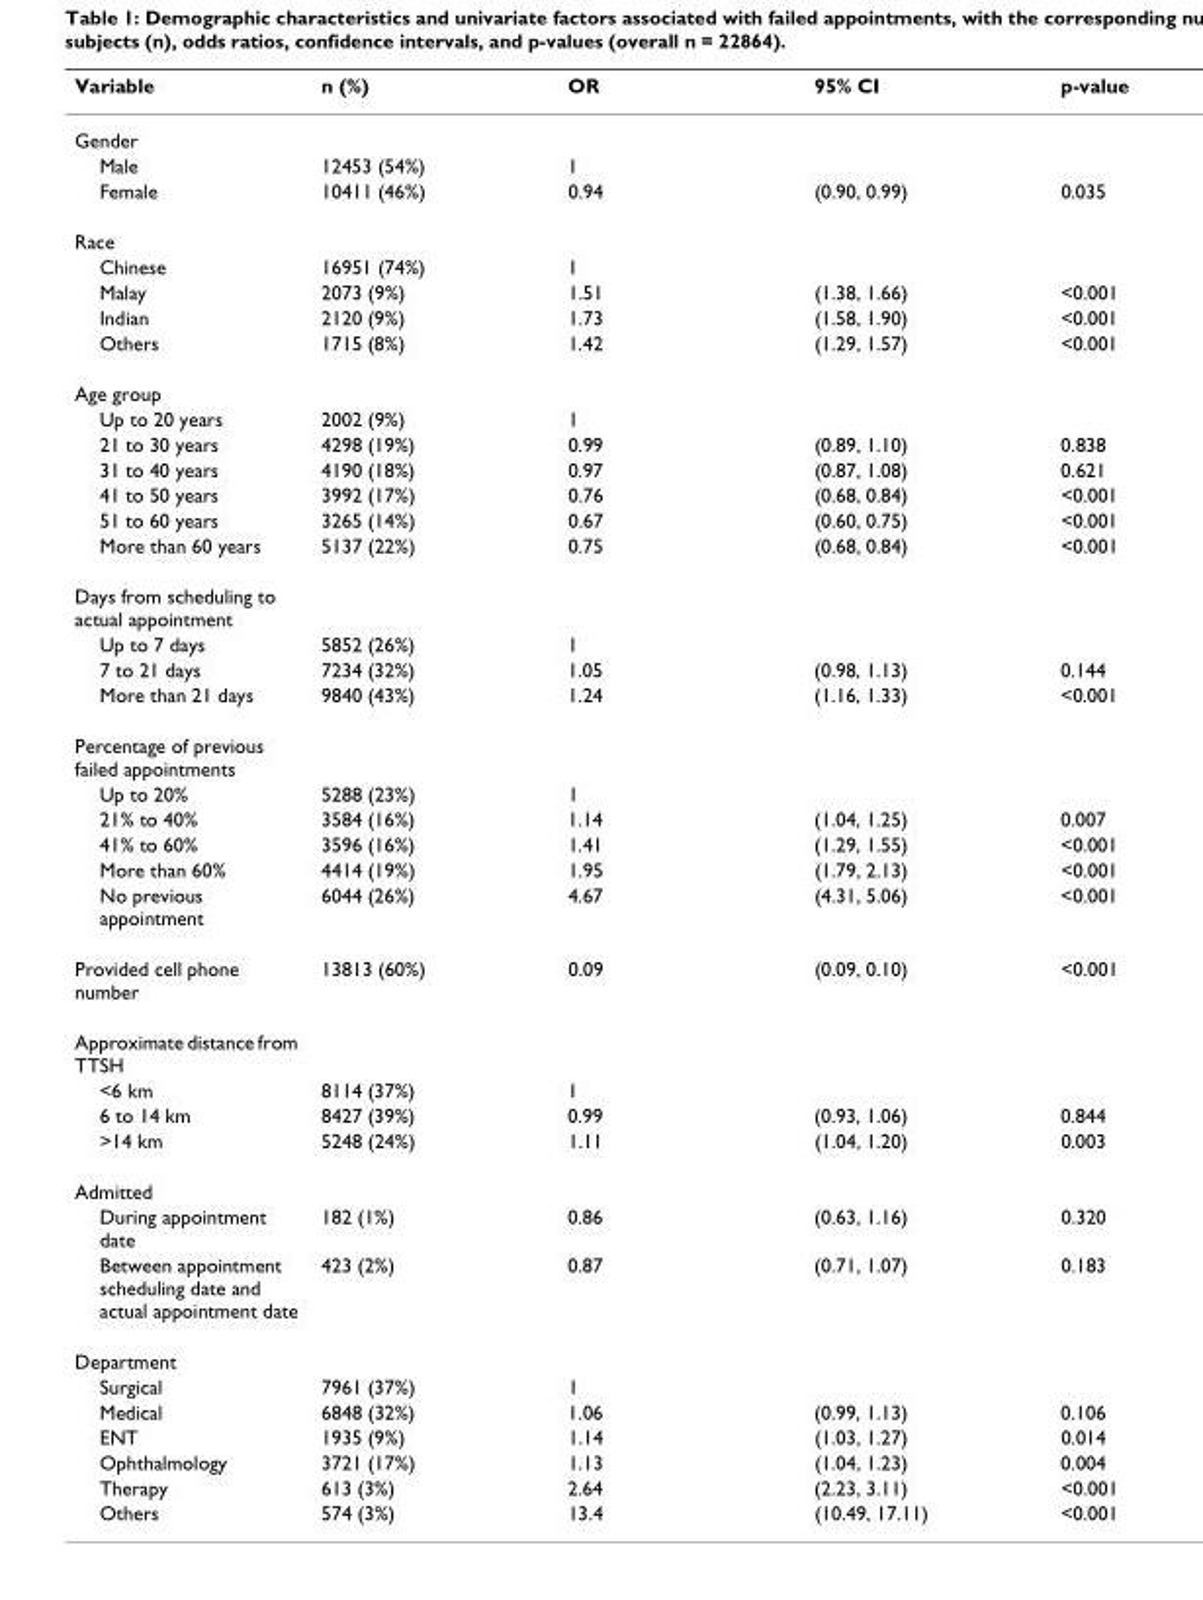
<table><thead><tr><td>Variable</td><td>n (%)</td><td>OR</td><td>95% CI</td><td>p-value</td></tr></thead><tbody><tr><td colspan="5">Gender</td></tr><tr><td>Male</td><td>12453 (54%)</td><td>1</td><td></td><td></td></tr><tr><td>Female</td><td>10411 (46%)</td><td>0.94</td><td>(0.90, 0.99)</td><td>0.035</td></tr><tr><td colspan="5">Race</td></tr><tr><td>Chinese</td><td>16951 (74%)</td><td>1</td><td></td><td></td></tr><tr><td>Malay</td><td>2073 (9%)</td><td>1.51</td><td>(1.38, 1.66)</td><td>&lt;0.001</td></tr><tr><td>Indian</td><td>2120 (9%)</td><td>1.73</td><td>(1.58, 1.90)</td><td>&lt;0.001</td></tr><tr><td>Others</td><td>1715 (8%)</td><td>1.42</td><td>(1.29, 1.57)</td><td>&lt;0.001</td></tr><tr><td colspan="5">Age group</td></tr><tr><td>Up to 20 years</td><td>2002 (9%)</td><td>1</td><td></td><td></td></tr><tr><td>21 to 30 years</td><td>4298 (19%)</td><td>0.99</td><td>(0.89, 1.10)</td><td>0.838</td></tr><tr><td>31 to 40 years</td><td>4190 (18%)</td><td>0.97</td><td>(0.87, 1.08)</td><td>0.621</td></tr><tr><td>41 to 50 years</td><td>3992 (17%)</td><td>0.76</td><td>(0.68, 0.84)</td><td>&lt;0.001</td></tr><tr><td>51 to 60 years</td><td>3265 (14%)</td><td>0.67</td><td>(0.60, 0.75)</td><td>&lt;0.001</td></tr><tr><td>More than 60 years</td><td>5137 (22%)</td><td>0.75</td><td>(0.68, 0.84)</td><td>&lt;0.001</td></tr><tr><td colspan="5">Days from scheduling to actual appointment</td></tr><tr><td>Up to 7 days</td><td>5852 (26%)</td><td>1</td><td></td><td></td></tr><tr><td>7 to 21 days</td><td>7234 (32%)</td><td>1.05</td><td>(0.98, 1.13)</td><td>0.144</td></tr><tr><td>More than 21 days</td><td>9840 (43%)</td><td>1.24</td><td>(1.16, 1.33)</td><td>&lt;0.001</td></tr><tr><td colspan="5">Percentage of previous failed appointments</td></tr><tr><td>Up to 20%</td><td>5288 (23%)</td><td>1</td><td></td><td></td></tr><tr><td>21% to 40%</td><td>3584 (16%)</td><td>1.14</td><td>(1.04, 1.25)</td><td>0.007</td></tr><tr><td>41% to 60%</td><td>3596 (16%)</td><td>1.41</td><td>(1.29, 1.55)</td><td>&lt;0.001</td></tr><tr><td>More than 60%</td><td>4414 (19%)</td><td>1.95</td><td>(1.79, 2.13)</td><td>&lt;0.001</td></tr><tr><td>No previous appointment</td><td>6044 (26%)</td><td>4.67</td><td>(4.31, 5.06)</td><td>&lt;0.001</td></tr><tr><td>Provided cell phone number</td><td>13813 (60%)</td><td>0.09</td><td>(0.09, 0.10)</td><td>&lt;0.001</td></tr><tr><td colspan="5">Approximate distance from TTSH</td></tr><tr><td>&lt;6 km</td><td>8114 (37%)</td><td>1</td><td></td><td></td></tr><tr><td>6 to 14 km</td><td>8427 (39%)</td><td>0.99</td><td>(0.93, 1.06)</td><td>0.844</td></tr><tr><td>&gt;14 km</td><td>5248 (24%)</td><td>1.11</td><td>(1.04, 1.20)</td><td>0.003</td></tr><tr><td colspan="5">Admitted</td></tr><tr><td>During appointment date</td><td>182 (1%)</td><td>0.86</td><td>(0.63, 1.16)</td><td>0.320</td></tr><tr><td>Between appointment scheduling date and actual appointment date</td><td>423 (2%)</td><td>0.87</td><td>(0.71, 1.07)</td><td>0.183</td></tr><tr><td colspan="5">Department</td></tr><tr><td>Surgical</td><td>7961 (37%)</td><td>1</td><td></td><td></td></tr><tr><td>Medical</td><td>6848 (32%)</td><td>1.06</td><td>(0.99, 1.13)</td><td>0.106</td></tr><tr><td>ENT</td><td>1935 (9%)</td><td>1.14</td><td>(1.03, 1.27)</td><td>0.014</td></tr><tr><td>Ophthalmology</td><td>3721 (17%)</td><td>1.13</td><td>(1.04, 1.23)</td><td>0.004</td></tr><tr><td>Therapy</td><td>613 (3%)</td><td>2.64</td><td>(2.23, 3.11)</td><td>&lt;0.001</td></tr><tr><td>Others</td><td>574 (3%)</td><td>13.4</td><td>(10.49, 17.11)</td><td>&lt;0.001</td></tr></tbody></table>